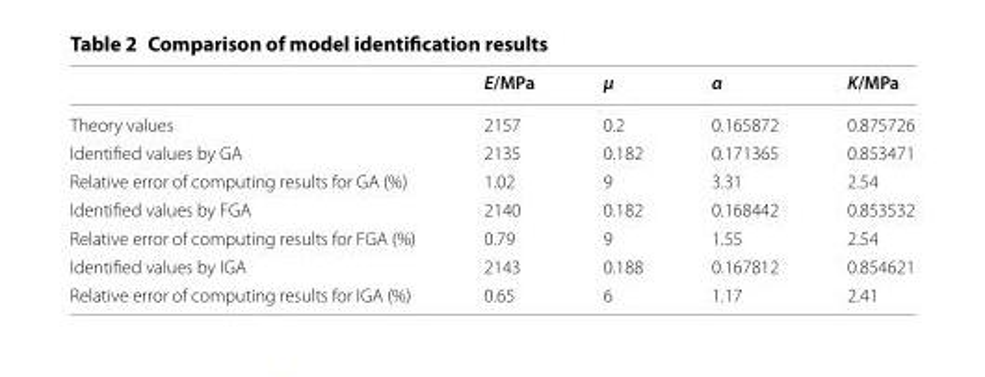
<table><thead><tr><td></td><td>E/MPa</td><td>μ</td><td>α</td><td>K/MPa</td></tr></thead><tbody><tr><td>Theory values</td><td>2157</td><td>0.2</td><td>0.165872</td><td>0.875726</td></tr><tr><td>Identified values by GA</td><td>2135</td><td>0.182</td><td>0.171365</td><td>0.853471</td></tr><tr><td>Relative error of computing results for GA (%)</td><td>1.02</td><td>9</td><td>3.31</td><td>2.54</td></tr><tr><td>Identified values by FGA</td><td>2140</td><td>0.182</td><td>0.168442</td><td>0.853532</td></tr><tr><td>Relative error of computing results for FGA (%)</td><td>0.79</td><td>9</td><td>1.55</td><td>2.54</td></tr><tr><td>Identified values by IGA</td><td>2143</td><td>0.188</td><td>0.167812</td><td>0.854621</td></tr><tr><td>Relative error of computing results for IGA (%)</td><td>0.65</td><td>6</td><td>1.17</td><td>2.41</td></tr></tbody></table>